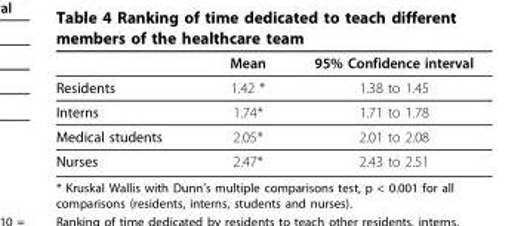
<table><thead><tr><td></td><td>Mean</td><td>95% Confidence interval</td></tr></thead><tbody><tr><td>Residents</td><td>1.42 *</td><td>1.38 to 1.45</td></tr><tr><td>Interns</td><td>1.74*</td><td>1.71 to 1.78</td></tr><tr><td>Medical students</td><td>2.05*</td><td>2.01 to 2.08</td></tr><tr><td>Nurses</td><td>2.47*</td><td>2.43 to 2.51</td></tr></tbody></table>